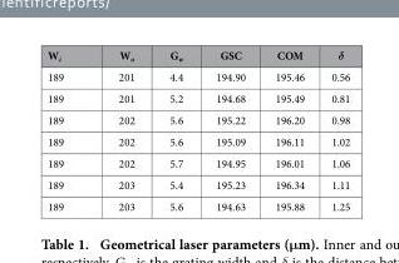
<table><thead><tr><td>W<sub>i</sub></td><td>W<sub>o</sub></td><td>G<sub>w</sub></td><td>GSC</td><td>COM</td><td>δ</td></tr></thead><tbody><tr><td>189</td><td>201</td><td>4.4</td><td>194.90</td><td>195.46</td><td>0.56</td></tr><tr><td>189</td><td>201</td><td>5.2</td><td>194.68</td><td>195.49</td><td>0.81</td></tr><tr><td>189</td><td>202</td><td>5.6</td><td>195.22</td><td>196.20</td><td>0.98</td></tr><tr><td>189</td><td>202</td><td>5.6</td><td>195.09</td><td>196.11</td><td>1.02</td></tr><tr><td>189</td><td>202</td><td>5.7</td><td>194.95</td><td>196.01</td><td>1.06</td></tr><tr><td>189</td><td>203</td><td>5.4</td><td>195.23</td><td>196.34</td><td>1.11</td></tr><tr><td>189</td><td>203</td><td>5.6</td><td>194.63</td><td>195.88</td><td>1.25</td></tr></tbody></table>